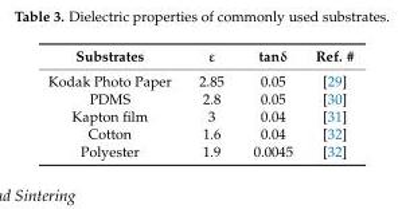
<table><thead><tr><td>Substrates</td><td>ε</td><td>tanδ</td><td>Ref. #</td></tr></thead><tbody><tr><td>Kodak Photo Paper</td><td>2.85</td><td>0.05</td><td>[29]</td></tr><tr><td>PDMS</td><td>2.8</td><td>0.05</td><td>[30]</td></tr><tr><td>Kapton film</td><td>3</td><td>0.04</td><td>[31]</td></tr><tr><td>Cotton</td><td>1.6</td><td>0.04</td><td>[32]</td></tr><tr><td>Polyester</td><td>1.9</td><td>0.0045</td><td>[32]</td></tr></tbody></table>